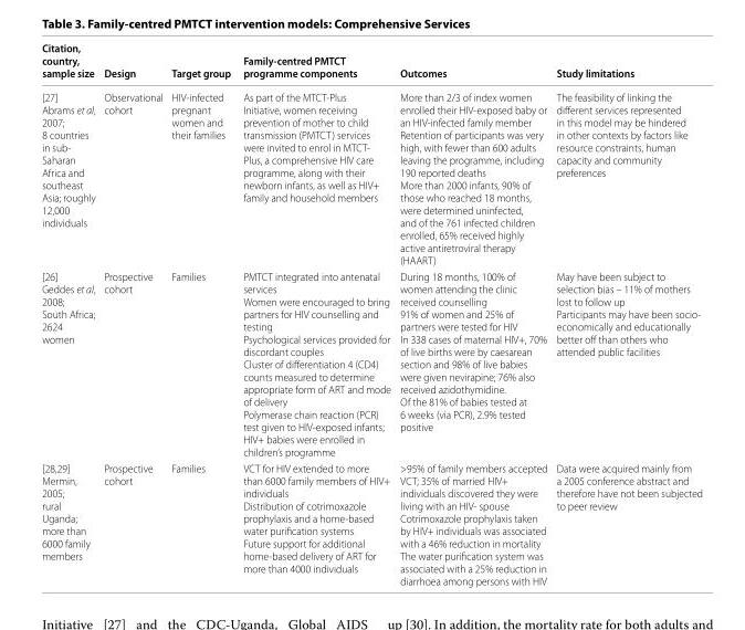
<table><thead><tr><td>Citation, country, sample size</td><td>Design</td><td>Target group</td><td>Family-centred PMTCT programme components</td><td>Outcomes</td><td>Study limitations</td></tr></thead><tbody><tr><td>[27] Abrams et al, 2007; 8 countries in sub- Saharan Africa and southeast Asia; roughly 12,000 individuals</td><td>Observational cohort</td><td>HIV-infected pregnant women and their families</td><td>As part of the MTCT-Plus Initiative, women receiving prevention of mother to child transmission (PMTCT) services were invited to enrol in MTCT- Plus, a comprehensive HIV care programme, along with their newborn infants, as well as HIV+ family and household members</td><td>More than 2/3 of index women enrolled their HIV-exposed baby or an HIV-infected family member Retention of participants was very high, with fewer than 600 adults leaving the programme, including 190 reported deaths More than 2000 infants, 90% of those who reached 18 months, were determined uninfected, and of the 761 infected children enrolled, 65% received highly active antiretroviral therapy (HAART)</td><td>The feasibility of linking the diff erent services represented in this model may be hindered in other contexts by factors like resource constraints, human capacity and community preferences</td></tr><tr><td>[26] Geddes et al, 2008; South Africa; 2624 women</td><td>Prospective cohort</td><td>Families</td><td>PMTCT integrated into antenatal services Women were encouraged to bring partners for HIV counselling and testing Psychological services provided for discordant couples Cluster of diff erentiation 4 (CD4) counts measured to determine appropriate form of ART and mode of delivery Polymerase chain reaction (PCR) test given to HIV-exposed infants; HIV+ babies were enrolled in children’s programme</td><td>During 18 months, 100% of women attending the clinic received counselling 91% of women and 25% of partners were tested for HIV In 338 cases of maternal HIV+, 70% of live births were by caesarean section and 98% of live babies were given nevirapine; 76% also received azidothymidine. Of the 81% of babies tested at 6 weeks (via PCR), 2.9% tested positive</td><td>May have been subject to selection bias – 11% of mothers lost to follow up Participants may have been socio- economically and educationally better off than others who attended public facilities</td></tr><tr><td>[28,29] Mermin, 2005; rural Uganda; more than 6000 family members</td><td>Prospective cohort</td><td>Families</td><td>VCT for HIV extended to more than 6000 family members of HIV+ individuals Distribution of cotrimoxazole prophylaxis and a home-based water purifi cation systems Future support for additional home-based delivery of ART for more than 4000 individuals</td><td>&gt;95% of family members accepted VCT; 35% of married HIV+ individuals discovered they were living with an HIV- spouse Cotrimoxazole prophylaxis taken by HIV+ individuals was associated with a 46% reduction in mortality The water purifi cation system was associated with a 25% reduction in diarrhoea among persons with HIV</td><td>Data were acquired mainly from a 2005 conference abstract and therefore have not been subjected to peer review</td></tr></tbody></table>